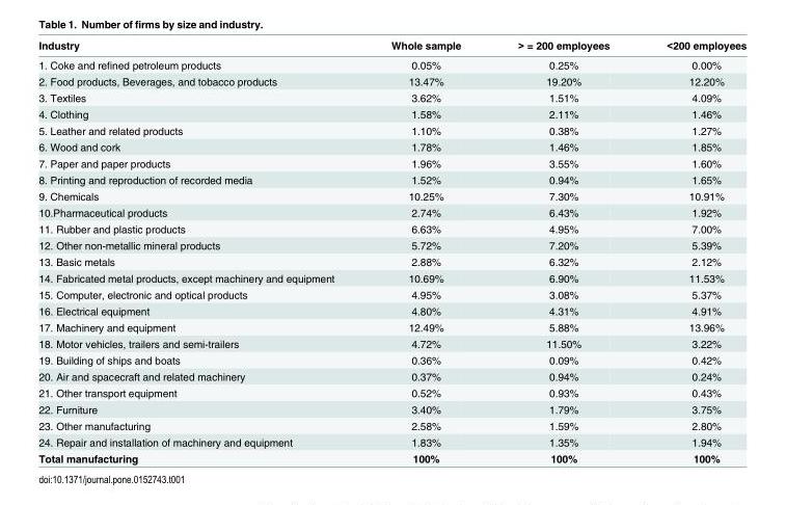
<table><thead><tr><td>Industry</td><td>Whole sample</td><td>&gt; = 200 employees</td><td>&lt;200 employees</td></tr></thead><tbody><tr><td>1. Coke and refined petroleum products</td><td>0.05%</td><td>0.25%</td><td>0.00%</td></tr><tr><td>2. Food products, Beverages, and tobacco products</td><td>13.47%</td><td>19.20%</td><td>12.20%</td></tr><tr><td>3. Textiles</td><td>3.62%</td><td>1.51%</td><td>4.09%</td></tr><tr><td>4. Clothing</td><td>1.58%</td><td>2.11%</td><td>1.46%</td></tr><tr><td>5. Leather and related products</td><td>1.10%</td><td>0.38%</td><td>1.27%</td></tr><tr><td>6. Wood and cork</td><td>1.78%</td><td>1.46%</td><td>1.85%</td></tr><tr><td>7. Paper and paper products</td><td>1.96%</td><td>3.55%</td><td>1.60%</td></tr><tr><td>8. Printing and reproduction of recorded media</td><td>1.52%</td><td>0.94%</td><td>1.65%</td></tr><tr><td>9. Chemicals</td><td>10.25%</td><td>7.30%</td><td>10.91%</td></tr><tr><td>10.Pharmaceutical products</td><td>2.74%</td><td>6.43%</td><td>1.92%</td></tr><tr><td>11. Rubber and plastic products</td><td>6.63%</td><td>4.95%</td><td>7.00%</td></tr><tr><td>12. Other non-metallic mineral products</td><td>5.72%</td><td>7.20%</td><td>5.39%</td></tr><tr><td>13. Basic metals</td><td>2.88%</td><td>6.32%</td><td>2.12%</td></tr><tr><td>14. Fabricated metal products, except machinery and equipment</td><td>10.69%</td><td>6.90%</td><td>11.53%</td></tr><tr><td>15. Computer, electronic and optical products</td><td>4.95%</td><td>3.08%</td><td>5.37%</td></tr><tr><td>16. Electrical equipment</td><td>4.80%</td><td>4.31%</td><td>4.91%</td></tr><tr><td>17. Machinery and equipment</td><td>12.49%</td><td>5.88%</td><td>13.96%</td></tr><tr><td>18. Motor vehicles, trailers and semi-trailers</td><td>4.72%</td><td>11.50%</td><td>3.22%</td></tr><tr><td>19. Building of ships and boats</td><td>0.36%</td><td>0.09%</td><td>0.42%</td></tr><tr><td>20. Air and spacecraft and related machinery</td><td>0.37%</td><td>0.94%</td><td>0.24%</td></tr><tr><td>21. Other transport equipment</td><td>0.52%</td><td>0.93%</td><td>0.43%</td></tr><tr><td>22. Furniture</td><td>3.40%</td><td>1.79%</td><td>3.75%</td></tr><tr><td>23. Other manufacturing</td><td>2.58%</td><td>1.59%</td><td>2.80%</td></tr><tr><td>24. Repair and installation of machinery and equipment</td><td>1.83%</td><td>1.35%</td><td>1.94%</td></tr><tr><td>Total manufacturing</td><td>100%</td><td>100%</td><td>100%</td></tr></tbody></table>